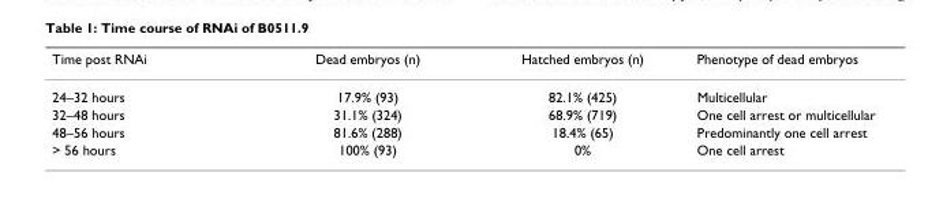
<table><thead><tr><td>Time post RNAi</td><td>Dead embryos (n)</td><td>Hatched embryos (n)</td><td>Phenotype of dead embryos</td></tr></thead><tbody><tr><td>24–32 hours</td><td>17.9% (93)</td><td>82.1% (425)</td><td>Multicellular</td></tr><tr><td>32–48 hours</td><td>31.1% (324)</td><td>68.9% (719)</td><td>One cell arrest or multicellular</td></tr><tr><td>48–56 hours</td><td>81.6% (288)</td><td>18.4% (65)</td><td>Predominantly one cell arrest</td></tr><tr><td>&gt; 56 hours</td><td>100% (93)</td><td>0%</td><td>One cell arrest</td></tr></tbody></table>